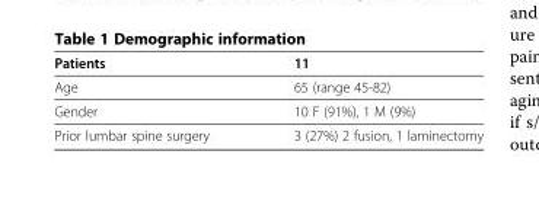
<table><thead><tr><td>Patients</td><td>11</td></tr></thead><tbody><tr><td>Age</td><td>65 (range 45-82)</td></tr><tr><td>Gender</td><td>10 F (91%), 1 M (9%)</td></tr><tr><td>Prior lumbar spine surgery</td><td>3 (27%) 2 fusion, 1 laminectomy</td></tr></tbody></table>